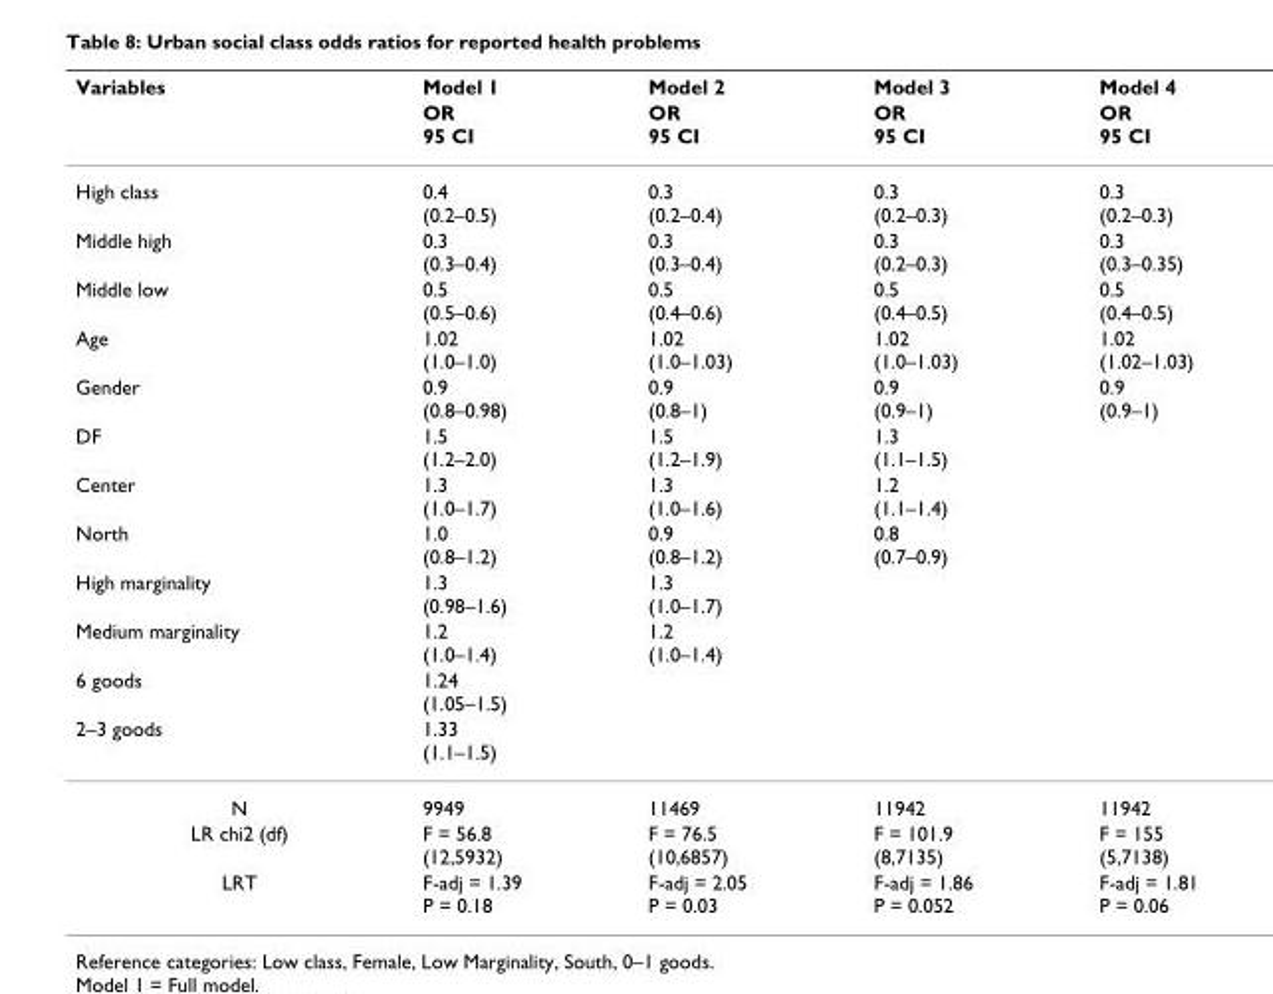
<table><thead><tr><td rowspan="2">Variables</td><td rowspan="2">Model 1 OR 95 CI</td><td rowspan="2">Model 2 OR 95 CI</td><td rowspan="2">Model 3 OR 95 CI</td><td rowspan="2">Model 4 OR 95 CI</td></tr><tr></tr></thead><tbody><tr><td>High class</td><td>0.4 (0.2–0.5)</td><td>0.3 (0.2–0.4)</td><td>0.3 (0.2–0.3)</td><td>0.3 (0.2–0.3)</td></tr><tr><td>Middle high</td><td>0.3 (0.3–0.4)</td><td>0.3 (0.3–0.4)</td><td>0.3 (0.2–0.3)</td><td>0.3 (0.3–0.35)</td></tr><tr><td>Middle low</td><td>0.5 (0.5–0.6)</td><td>0.5 (0.4–0.6)</td><td>0.5 (0.4–0.5)</td><td>0.5 (0.4–0.5)</td></tr><tr><td>Age</td><td>1.02 (1.0–1.0)</td><td>1.02 (1.0–1.03)</td><td>1.02 (1.0–1.03)</td><td>1.02 (1.02–1.03)</td></tr><tr><td>Gender</td><td>0.9 (0.8–0.98)</td><td>0.9 (0.8–1)</td><td>0.9 (0.9–1)</td><td>0.9 (0.9–1)</td></tr><tr><td>DF</td><td>1.5 (1.2–2.0)</td><td>1.5 (1.2–1.9)</td><td>1.3 (1.1–1.5)</td><td></td></tr><tr><td>Center</td><td>1.3 (1.0–1.7)</td><td>1.3 (1.0–1.6)</td><td>1.2 (1.1–1.4)</td><td></td></tr><tr><td>North</td><td>1.0 (0.8–1.2)</td><td>0.9 (0.8–1.2)</td><td>0.8 (0.7–0.9)</td><td></td></tr><tr><td>High marginality</td><td>1.3 (0.98–1.6)</td><td>1.3 (1.0–1.7)</td><td></td><td></td></tr><tr><td>Medium marginality</td><td>1.2 (1.0–1.4)</td><td>1.2 (1.0–1.4)</td><td></td><td></td></tr><tr><td>6 goods</td><td>1.24 (1.05–1.5)</td><td></td><td></td><td></td></tr><tr><td>2–3 goods</td><td>1.33 (1.1–1.5)</td><td></td><td></td><td></td></tr><tr><td>N</td><td>9949</td><td>11469</td><td>11942</td><td>11942</td></tr><tr><td>LR chi2 (df)</td><td>F = 56.8 (12,5932)</td><td>F = 76.5 (10,6857)</td><td>F = 101.9 (8,7135)</td><td>F = 155 (5,7138)</td></tr><tr><td>LRT</td><td>F-adj = 1.39 P = 0.18</td><td>F-adj = 2.05 P = 0.03</td><td>F-adj = 1.86 P = 0.052</td><td>F-adj = 1.81 P = 0.06</td></tr></tbody></table>